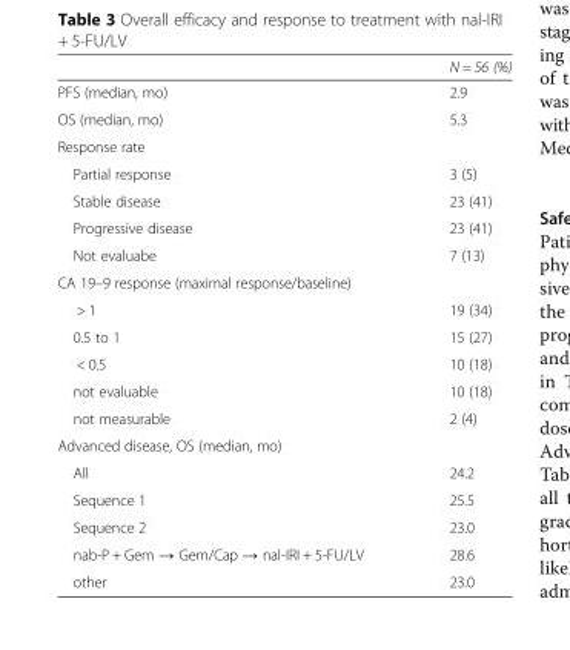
<table><thead><tr><td></td><td>N = 56 (%)</td></tr></thead><tbody><tr><td>PFS (median, mo)</td><td>2.9</td></tr><tr><td>OS (median, mo)</td><td>5.3</td></tr><tr><td colspan="2">Response rate</td></tr><tr><td>Partial response</td><td>3 (5)</td></tr><tr><td>Stable disease</td><td>23 (41)</td></tr><tr><td>Progressive disease</td><td>23 (41)</td></tr><tr><td>Not evaluabe</td><td>7 (13)</td></tr><tr><td colspan="2">CA 19–9 response (maximal response/baseline)</td></tr><tr><td>&gt; 1</td><td>19 (34)</td></tr><tr><td>0.5 to 1</td><td>15 (27)</td></tr><tr><td>&lt; 0.5</td><td>10 (18)</td></tr><tr><td>not evaluable</td><td>10 (18)</td></tr><tr><td>not measurable</td><td>2 (4)</td></tr><tr><td colspan="2">Advanced disease, OS (median, mo)</td></tr><tr><td>All</td><td>24.2</td></tr><tr><td>Sequence 1</td><td>25.5</td></tr><tr><td>Sequence 2</td><td>23.0</td></tr><tr><td>nab-P + Gem → Gem/Cap → nal-IRI + 5-FU/LV</td><td>28.6</td></tr><tr><td>other</td><td>23.0</td></tr></tbody></table>